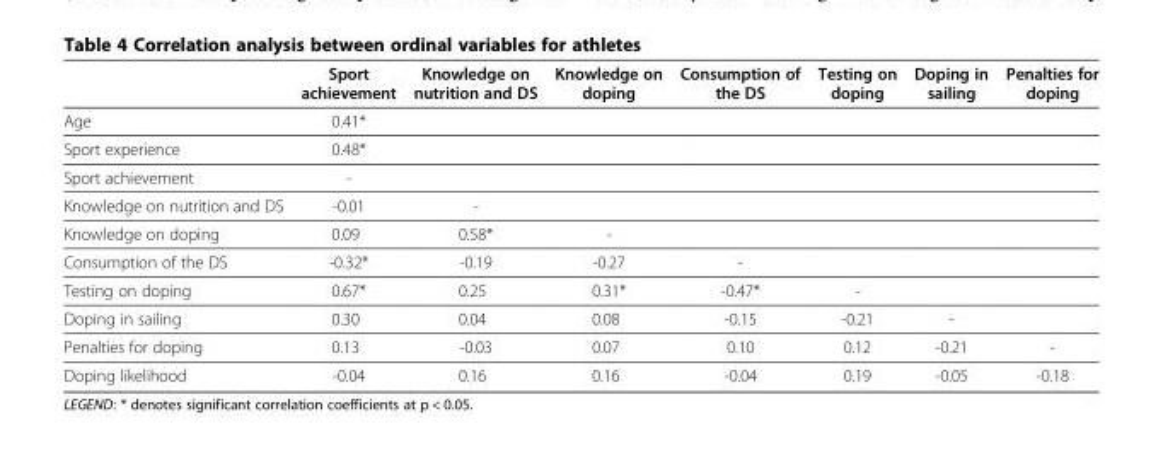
<table><thead><tr><td></td><td>Sport achievement</td><td>Knowledge on nutrition and DS</td><td>Knowledge on doping</td><td>Consumption of the DS</td><td>Testing on doping</td><td>Doping in sailing</td><td>Penalties for doping</td></tr></thead><tbody><tr><td>Age</td><td>0.41*</td><td></td><td></td><td></td><td></td><td></td><td></td></tr><tr><td>Sport experience</td><td>0.48*</td><td></td><td></td><td></td><td></td><td></td><td></td></tr><tr><td>Sport achievement</td><td>-</td><td></td><td></td><td></td><td></td><td></td><td></td></tr><tr><td>Knowledge on nutrition and DS</td><td>-0.01</td><td>-</td><td></td><td></td><td></td><td></td><td></td></tr><tr><td>Knowledge on doping</td><td>0.09</td><td>0.58*</td><td>-</td><td></td><td></td><td></td><td></td></tr><tr><td>Consumption of the DS</td><td>-0.32*</td><td>-0.19</td><td>-0.27</td><td>-</td><td></td><td></td><td></td></tr><tr><td>Testing on doping</td><td>0.67*</td><td>0.25</td><td>0.31*</td><td>-0.47*</td><td>-</td><td></td><td></td></tr><tr><td>Doping in sailing</td><td>0.30</td><td>0.04</td><td>0.08</td><td>-0.15</td><td>-0.21</td><td>-</td><td></td></tr><tr><td>Penalties for doping</td><td>0.13</td><td>-0.03</td><td>0.07</td><td>0.10</td><td>0.12</td><td>-0.21</td><td>-</td></tr><tr><td>Doping likelihood</td><td>-0.04</td><td>0.16</td><td>0.16</td><td>-0.04</td><td>0.19</td><td>-0.05</td><td>-0.18</td></tr></tbody></table>